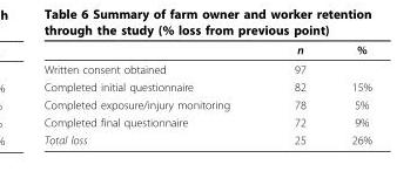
<table><thead><tr><td></td><td>n</td><td>%</td></tr></thead><tbody><tr><td>Written consent obtained</td><td>97</td><td></td></tr><tr><td>Completed initial questionnaire</td><td>82</td><td>15%</td></tr><tr><td>Completed exposure/injury monitoring</td><td>78</td><td>5%</td></tr><tr><td>Completed final questionnaire</td><td>72</td><td>9%</td></tr><tr><td>Total loss</td><td>25</td><td>26%</td></tr></tbody></table>